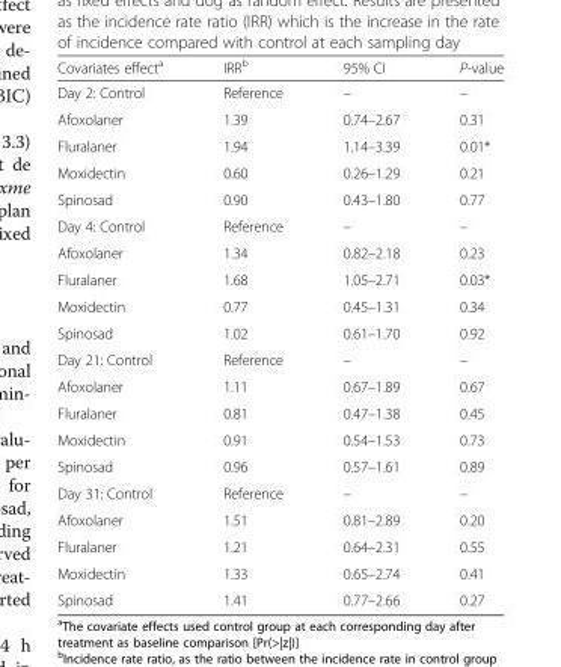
<table><thead><tr><td>Covariates effect<sup>a</sup></td><td>IRR<sup>b</sup></td><td>95% CI</td><td>P-value</td></tr></thead><tbody><tr><td>Day 2: Control</td><td>Reference</td><td>–</td><td>–</td></tr><tr><td>Afoxolaner</td><td>1.39</td><td>0.74–2.67</td><td>0.31</td></tr><tr><td>Fluralaner</td><td>1.94</td><td>1.14–3.39</td><td>0.01*</td></tr><tr><td>Moxidectin</td><td>0.60</td><td>0.26–1.29</td><td>0.21</td></tr><tr><td>Spinosad</td><td>0.90</td><td>0.43–1.80</td><td>0.77</td></tr><tr><td>Day 4: Control</td><td>Reference</td><td>–</td><td>–</td></tr><tr><td>Afoxolaner</td><td>1.34</td><td>0.82–2.18</td><td>0.23</td></tr><tr><td>Fluralaner</td><td>1.68</td><td>1.05–2.71</td><td>0.03*</td></tr><tr><td>Moxidectin</td><td>0.77</td><td>0.45–1.31</td><td>0.34</td></tr><tr><td>Spinosad</td><td>1.02</td><td>0.61–1.70</td><td>0.92</td></tr><tr><td>Day 21: Control</td><td>Reference</td><td>–</td><td>–</td></tr><tr><td>Afoxolaner</td><td>1.11</td><td>0.67–1.89</td><td>0.67</td></tr><tr><td>Fluralaner</td><td>0.81</td><td>0.47–1.38</td><td>0.45</td></tr><tr><td>Moxidectin</td><td>0.91</td><td>0.54–1.53</td><td>0.73</td></tr><tr><td>Spinosad</td><td>0.96</td><td>0.57–1.61</td><td>0.89</td></tr><tr><td>Day 31: Control</td><td>Reference</td><td>–</td><td>–</td></tr><tr><td>Afoxolaner</td><td>1.51</td><td>0.81–2.89</td><td>0.20</td></tr><tr><td>Fluralaner</td><td>1.21</td><td>0.64–2.31</td><td>0.55</td></tr><tr><td>Moxidectin</td><td>1.33</td><td>0.65–2.74</td><td>0.41</td></tr><tr><td>Spinosad</td><td>1.41</td><td>0.77–2.66</td><td>0.27</td></tr></tbody></table>